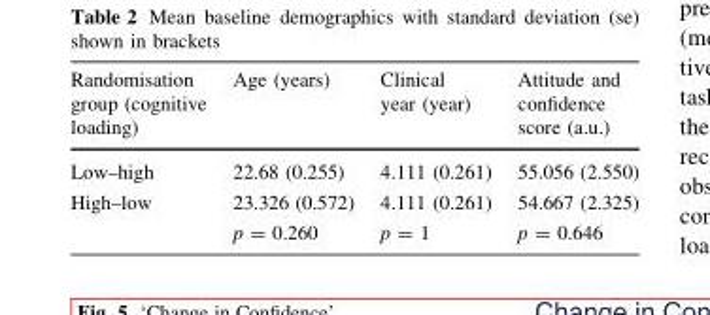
<table><thead><tr><td>Randomisation group (cognitive loading)</td><td>Age (years)</td><td>Clinical year (year)</td><td>Attitude and confidence score (a.u.)</td></tr></thead><tbody><tr><td>Low–high</td><td>22.68 (0.255)</td><td>4.111 (0.261)</td><td>55.056 (2.550)</td></tr><tr><td rowspan="2">High–low</td><td>23.326 (0.572)</td><td>4.111 (0.261)</td><td>54.667 (2.325)</td></tr><tr><td>p = 0.260</td><td>p = 1</td><td>p = 0.646</td></tr></tbody></table>